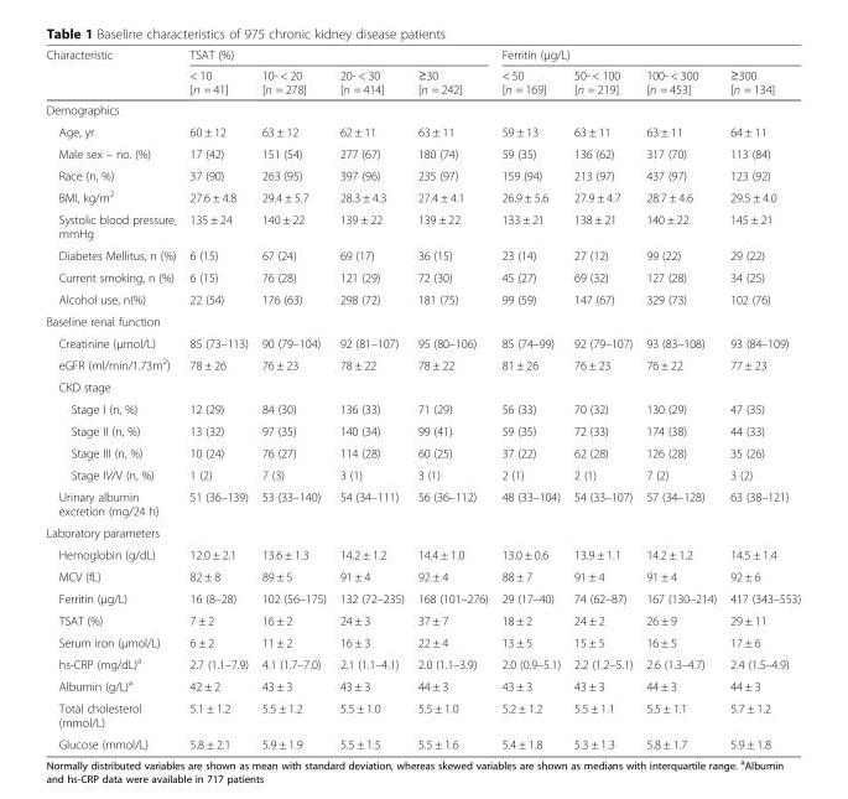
<table><thead><tr><td rowspan="2">Characteristic</td><td colspan="4">TSAT (%)</td><td colspan="4">Ferritin (μg/L)</td></tr><tr><td>&lt; 10 [n = 41]</td><td>10- &lt; 20 [n = 278]</td><td>20- &lt; 30 [n = 414]</td><td>≥30 [n = 242]</td><td>&lt; 50 [n = 169]</td><td>50- &lt; 100 [n = 219]</td><td>100- &lt; 300 [n = 453]</td><td>≥300 [n = 134]</td></tr></thead><tbody><tr><td colspan="9">Demographics</td></tr><tr><td>Age, yr</td><td>60 ± 12</td><td>63 ± 12</td><td>62 ± 11</td><td>63 ± 11</td><td>59 ± 13</td><td>63 ± 11</td><td>63 ± 11</td><td>64 ± 11</td></tr><tr><td>Male sex – no. (%)</td><td>17 (42)</td><td>151 (54)</td><td>277 (67)</td><td>180 (74)</td><td>59 (35)</td><td>136 (62)</td><td>317 (70)</td><td>113 (84)</td></tr><tr><td>Race (n, %)</td><td>37 (90)</td><td>263 (95)</td><td>397 (96)</td><td>235 (97)</td><td>159 (94)</td><td>213 (97)</td><td>437 (97)</td><td>123 (92)</td></tr><tr><td>BMI, kg/m<sup>2</sup></td><td>27.6 ± 4.8</td><td>29.4 ± 5.7</td><td>28.3 ± 4.3</td><td>27.4 ± 4.1</td><td>26.9 ± 5.6</td><td>27.9 ± 4.7</td><td>28.7 ± 4.6</td><td>29.5 ± 4.0</td></tr><tr><td>Systolic blood pressure, mmHg</td><td>135 ± 24</td><td>140 ± 22</td><td>139 ± 22</td><td>139 ± 22</td><td>133 ± 21</td><td>138 ± 21</td><td>140 ± 22</td><td>145 ± 21</td></tr><tr><td>Diabetes Mellitus, n (%)</td><td>6 (15)</td><td>67 (24)</td><td>69 (17)</td><td>36 (15)</td><td>23 (14)</td><td>27 (12)</td><td>99 (22)</td><td>29 (22)</td></tr><tr><td>Current smoking, n (%)</td><td>6 (15)</td><td>76 (28)</td><td>121 (29)</td><td>72 (30)</td><td>45 (27)</td><td>69 (32)</td><td>127 (28)</td><td>34 (25)</td></tr><tr><td>Alcohol use, n(%)</td><td>22 (54)</td><td>176 (63)</td><td>298 (72)</td><td>181 (75)</td><td>99 (59)</td><td>147 (67)</td><td>329 (73)</td><td>102 (76)</td></tr><tr><td colspan="9">Baseline renal function</td></tr><tr><td>Creatinine (μmol/L)</td><td>85 (73–113)</td><td>90 (79–104)</td><td>92 (81–107)</td><td>95 (80–106)</td><td>85 (74–99)</td><td>92 (79–107)</td><td>93 (83–108)</td><td>93 (84–109)</td></tr><tr><td>eGFR (ml/min/1.73m<sup>2</sup>)</td><td>78 ± 26</td><td>76 ± 23</td><td>78 ± 22</td><td>78 ± 22</td><td>81 ± 26</td><td>76 ± 23</td><td>76 ± 22</td><td>77 ± 23</td></tr><tr><td colspan="9">CKD stage</td></tr><tr><td>Stage I (n, %)</td><td>12 (29)</td><td>84 (30)</td><td>136 (33)</td><td>71 (29)</td><td>56 (33)</td><td>70 (32)</td><td>130 (29)</td><td>47 (35)</td></tr><tr><td>Stage II (n, %)</td><td>13 (32)</td><td>97 (35)</td><td>140 (34)</td><td>99 (41)</td><td>59 (35)</td><td>72 (33)</td><td>174 (38)</td><td>44 (33)</td></tr><tr><td>Stage III (n, %)</td><td>10 (24)</td><td>76 (27)</td><td>114 (28)</td><td>60 (25)</td><td>37 (22)</td><td>62 (28)</td><td>126 (28)</td><td>35 (26)</td></tr><tr><td>Stage IV/V (n, %)</td><td>1 (2)</td><td>7 (3)</td><td>3 (1)</td><td>3 (1)</td><td>2 (1)</td><td>2 (1)</td><td>7 (2)</td><td>3 (2)</td></tr><tr><td>Urinary albumin excretion (mg/24 h)</td><td>51 (36–139)</td><td>53 (33–140)</td><td>54 (34–111)</td><td>56 (36–112)</td><td>48 (33–104)</td><td>54 (33–107)</td><td>57 (34–128)</td><td>63 (38–121)</td></tr><tr><td colspan="9">Laboratory parameters</td></tr><tr><td>Hemoglobin (g/dL)</td><td>12.0 ± 2.1</td><td>13.6 ± 1.3</td><td>14.2 ± 1.2</td><td>14.4 ± 1.0</td><td>13.0 ± 0.6</td><td>13.9 ± 1.1</td><td>14.2 ± 1.2</td><td>14.5 ± 1.4</td></tr><tr><td>MCV (fL)</td><td>82 ± 8</td><td>89 ± 5</td><td>91 ± 4</td><td>92 ± 4</td><td>88 ± 7</td><td>91 ± 4</td><td>91 ± 4</td><td>92 ± 6</td></tr><tr><td>Ferritin (μg/L)</td><td>16 (8–28)</td><td>102 (56–175)</td><td>132 (72–235)</td><td>168 (101–276)</td><td>29 (17–40)</td><td>74 (62–87)</td><td>167 (130–214)</td><td>417 (343–553)</td></tr><tr><td>TSAT (%)</td><td>7 ± 2</td><td>16 ± 2</td><td>24 ± 3</td><td>37 ± 7</td><td>18 ± 2</td><td>24 ± 2</td><td>26 ± 9</td><td>29 ± 11</td></tr><tr><td>Serum iron (μmol/L)</td><td>6 ± 2</td><td>11 ± 2</td><td>16 ± 3</td><td>22 ± 4</td><td>13 ± 5</td><td>15 ± 5</td><td>16 ± 5</td><td>17 ± 6</td></tr><tr><td>hs-CRP (mg/dL)<sup>a</sup></td><td>2.7 (1.1–7.9)</td><td>4.1 (1.7–7.0)</td><td>2.1 (1.1–4.1)</td><td>2.0 (1.1–3.9)</td><td>2.0 (0.9–5.1)</td><td>2.2 (1.2–5.1)</td><td>2.6 (1.3–4.7)</td><td>2.4 (1.5–4.9)</td></tr><tr><td>Albumin (g/L)<sup>a</sup></td><td>42 ± 2</td><td>43 ± 3</td><td>43 ± 3</td><td>44 ± 3</td><td>43 ± 3</td><td>43 ± 3</td><td>44 ± 3</td><td>44 ± 3</td></tr><tr><td>Total cholesterol (mmol/L)</td><td>5.1 ± 1.2</td><td>5.5 ± 1.2</td><td>5.5 ± 1.0</td><td>5.5 ± 1.0</td><td>5.2 ± 1.2</td><td>5.5 ± 1.1</td><td>5.5 ± 1.1</td><td>5.7 ± 1.2</td></tr><tr><td>Glucose (mmol/L)</td><td>5.8 ± 2.1</td><td>5.9 ± 1.9</td><td>5.5 ± 1.5</td><td>5.5 ± 1.6</td><td>5.4 ± 1.8</td><td>5.3 ± 1.3</td><td>5.8 ± 1.7</td><td>5.9 ± 1.8</td></tr></tbody></table>